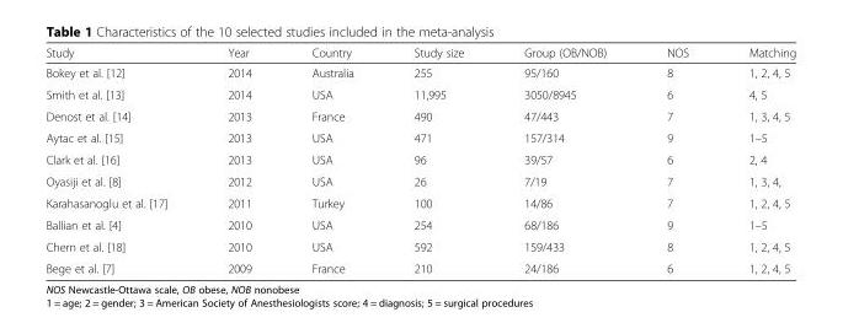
<table><thead><tr><td>Study</td><td>Year</td><td>Country</td><td>Study size</td><td>Group (OB/NOB)</td><td>NOS</td><td>Matching</td></tr></thead><tbody><tr><td>Bokey et al. [12]</td><td>2014</td><td>Australia</td><td>255</td><td>95/160</td><td>8</td><td>1, 2, 4, 5</td></tr><tr><td>Smith et al. [13]</td><td>2014</td><td>USA</td><td>11,995</td><td>3050/8945</td><td>6</td><td>4, 5</td></tr><tr><td>Denost et al. [14]</td><td>2013</td><td>France</td><td>490</td><td>47/443</td><td>7</td><td>1, 3, 4, 5</td></tr><tr><td>Aytac et al. [15]</td><td>2013</td><td>USA</td><td>471</td><td>157/314</td><td>9</td><td>1–5</td></tr><tr><td>Clark et al. [16]</td><td>2013</td><td>USA</td><td>96</td><td>39/57</td><td>6</td><td>2, 4</td></tr><tr><td>Oyasiji et al. [8]</td><td>2012</td><td>USA</td><td>26</td><td>7/19</td><td>7</td><td>1, 3, 4,</td></tr><tr><td>Karahasanoglu et al. [17]</td><td>2011</td><td>Turkey</td><td>100</td><td>14/86</td><td>7</td><td>1, 2, 4, 5</td></tr><tr><td>Ballian et al. [4]</td><td>2010</td><td>USA</td><td>254</td><td>68/186</td><td>9</td><td>1–5</td></tr><tr><td>Chern et al. [18]</td><td>2010</td><td>USA</td><td>592</td><td>159/433</td><td>8</td><td>1, 2, 4, 5</td></tr><tr><td>Bege et al. [7]</td><td>2009</td><td>France</td><td>210</td><td>24/186</td><td>6</td><td>1, 2, 4, 5</td></tr></tbody></table>